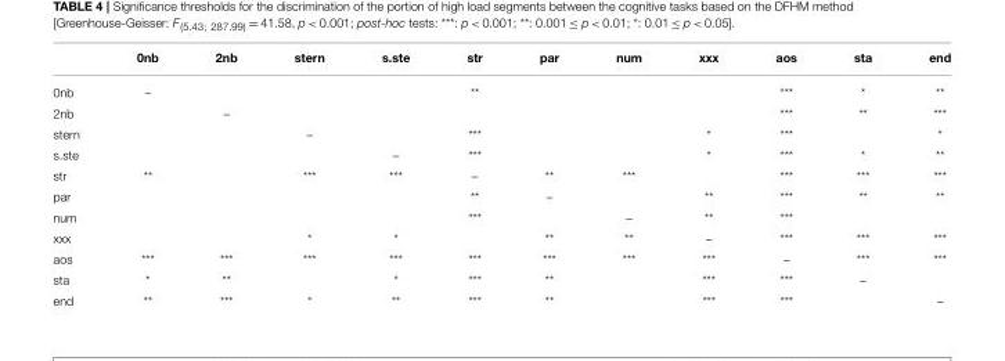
<table><thead><tr><td></td><td>0nb</td><td>2nb</td><td>stern</td><td>s.ste</td><td>str</td><td>par</td><td>num</td><td>xxx</td><td>aos</td><td>sta</td><td>end</td></tr></thead><tbody><tr><td>0nb</td><td>–</td><td></td><td></td><td></td><td>**</td><td></td><td></td><td></td><td>***</td><td>*</td><td>**</td></tr><tr><td>2nb</td><td></td><td>–</td><td></td><td></td><td></td><td></td><td></td><td></td><td>***</td><td>**</td><td>***</td></tr><tr><td>stern</td><td></td><td></td><td>–</td><td></td><td>***</td><td></td><td></td><td>*</td><td>***</td><td></td><td>*</td></tr><tr><td>s.ste</td><td></td><td></td><td></td><td>–</td><td>***</td><td></td><td></td><td>*</td><td>***</td><td>*</td><td>**</td></tr><tr><td>str</td><td>**</td><td></td><td>***</td><td>***</td><td>–</td><td>**</td><td>***</td><td></td><td>***</td><td>***</td><td>***</td></tr><tr><td>par</td><td></td><td></td><td></td><td></td><td>**</td><td>–</td><td></td><td>**</td><td>***</td><td>**</td><td>**</td></tr><tr><td>num</td><td></td><td></td><td></td><td></td><td>***</td><td></td><td>–</td><td>**</td><td>***</td><td></td><td></td></tr><tr><td>xxx</td><td></td><td></td><td>*</td><td>*</td><td></td><td>**</td><td>**</td><td>–</td><td>***</td><td>***</td><td>***</td></tr><tr><td>aos</td><td>***</td><td>***</td><td>***</td><td>***</td><td>***</td><td>***</td><td>***</td><td>***</td><td>–</td><td>***</td><td>***</td></tr><tr><td>sta</td><td>*</td><td>**</td><td></td><td>*</td><td>***</td><td>**</td><td></td><td>***</td><td>***</td><td>–</td><td></td></tr><tr><td>end</td><td>**</td><td>***</td><td>*</td><td>**</td><td>***</td><td>**</td><td></td><td>***</td><td>***</td><td></td><td>–</td></tr></tbody></table>